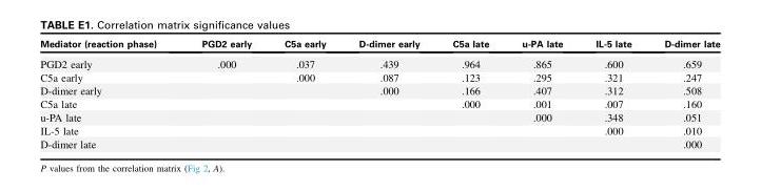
<table><thead><tr><td>Mediator (reaction phase)</td><td>PGD2 early</td><td>C5a early</td><td>D-dimer early</td><td>C5a late</td><td>u-PA late</td><td>IL-5 late</td><td>D-dimer late</td></tr></thead><tbody><tr><td>PGD2 early</td><td>.000</td><td>.037</td><td>.439</td><td>.964</td><td>.865</td><td>.600</td><td>.659</td></tr><tr><td>C5a early</td><td></td><td>.000</td><td>.087</td><td>.123</td><td>.295</td><td>.321</td><td>.247</td></tr><tr><td>D-dimer early</td><td></td><td></td><td>.000</td><td>.166</td><td>.407</td><td>.312</td><td>.508</td></tr><tr><td>C5a late</td><td></td><td></td><td></td><td>.000</td><td>.001</td><td>.007</td><td>.160</td></tr><tr><td>u-PA late</td><td></td><td></td><td></td><td></td><td>.000</td><td>.348</td><td>.051</td></tr><tr><td>IL-5 late</td><td></td><td></td><td></td><td></td><td></td><td>.000</td><td>.010</td></tr><tr><td>D-dimer late</td><td></td><td></td><td></td><td></td><td></td><td></td><td>.000</td></tr></tbody></table>